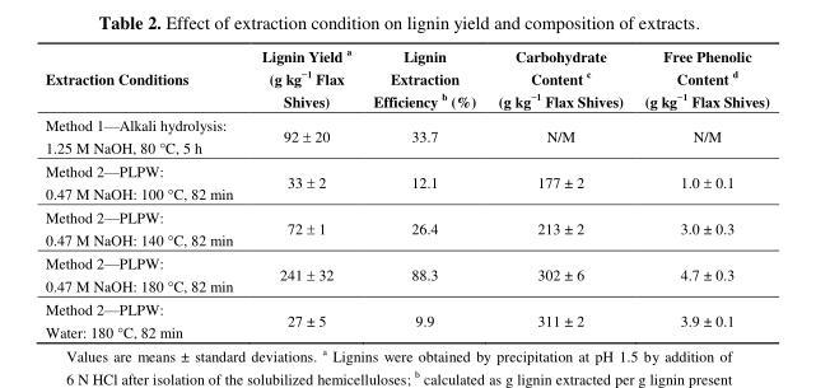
<table><thead><tr><td>Extraction Conditions</td><td>Lignin Yield a (g kg<sup>−1</sup> Flax Shives)</td><td>Lignin Extraction Efficiency b (%)</td><td>Carbohydrate Content c (g kg<sup>−1</sup> Flax Shives)</td><td>Free Phenolic Content d (g kg<sup>−1</sup> Flax Shives)</td></tr></thead><tbody><tr><td>Method 1—Alkali hydrolysis: 1.25 M NaOH, 80 °C, 5 h</td><td>92 ± 20</td><td>33.7</td><td>N/M</td><td>N/M</td></tr><tr><td>Method 2—PLPW: 0.47 M NaOH: 100 °C, 82 min</td><td>33 ± 2</td><td>12.1</td><td>177 ± 2</td><td>1.0 ± 0.1</td></tr><tr><td>Method 2—PLPW: 0.47 M NaOH: 140 °C, 82 min</td><td>72 ± 1</td><td>26.4</td><td>213 ± 2</td><td>3.0 ± 0.3</td></tr><tr><td>Method 2—PLPW: 0.47 M NaOH: 180 °C, 82 min</td><td>241 ± 32</td><td>88.3</td><td>302 ± 6</td><td>4.7 ± 0.3</td></tr><tr><td>Method 2—PLPW: Water: 180 °C, 82 min</td><td>27 ± 5</td><td>9.9</td><td>311 ± 2</td><td>3.9 ± 0.1</td></tr></tbody></table>